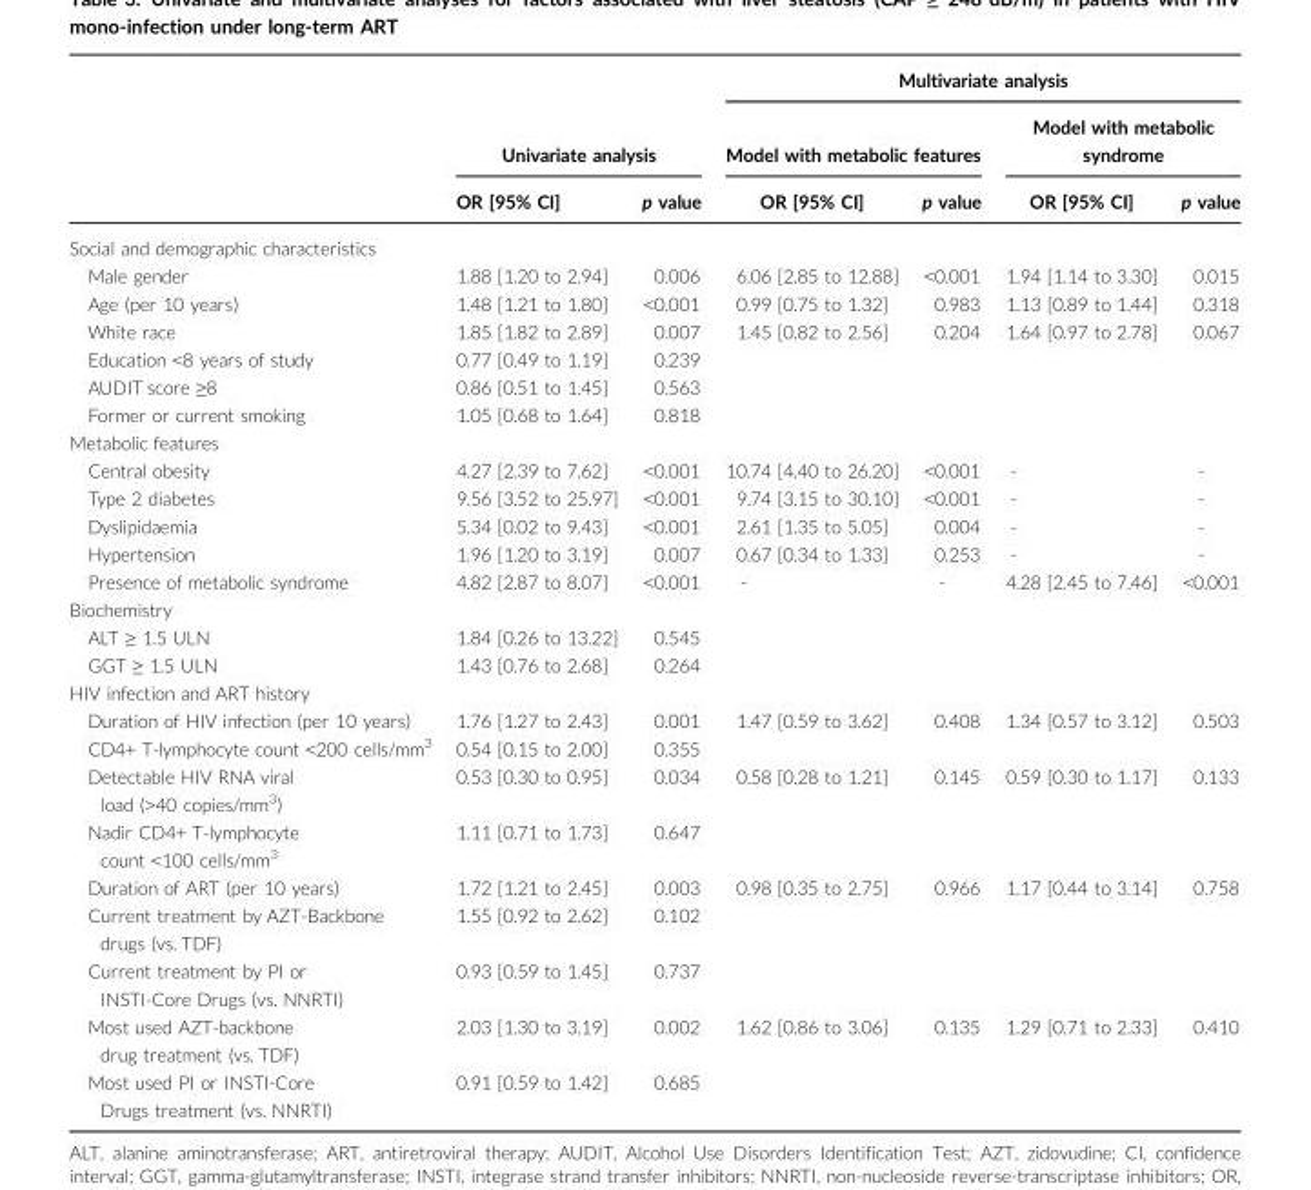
<table><thead><tr><td rowspan="3"></td><td rowspan="2" colspan="2">Univariate analysis</td><td colspan="4">Multivariate analysis</td></tr><tr><td colspan="2">Model with metabolic features</td><td colspan="2">Model with metabolic syndrome</td></tr><tr><td>OR [95% CI]</td><td>p value</td><td>OR [95% CI]</td><td>p value</td><td>OR [95% CI]</td><td>p value</td></tr></thead><tbody><tr><td colspan="7">Social and demographic characteristics</td></tr><tr><td>Male gender</td><td>1.88 [1.20 to 2.94]</td><td>0.006</td><td>6.06 [2.85 to 12.88]</td><td>&lt;0.001</td><td>1.94 [1.14 to 3.30]</td><td>0.015</td></tr><tr><td>Age (per 10 years)</td><td>1.48 [1.21 to 1.80]</td><td>&lt;0.001</td><td>0.99 [0.75 to 1.32]</td><td>0.983</td><td>1.13 [0.89 to 1.44]</td><td>0.318</td></tr><tr><td>White race</td><td>1.85 [1.82 to 2.89]</td><td>0.007</td><td>1.45 [0.82 to 2.56]</td><td>0.204</td><td>1.64 [0.97 to 2.78]</td><td>0.067</td></tr><tr><td>Education &lt;8 years of study</td><td>0.77 [0.49 to 1.19]</td><td>0.239</td><td></td><td></td><td></td><td></td></tr><tr><td>AUDIT score ≥8</td><td>0.86 [0.51 to 1.45]</td><td>0.563</td><td></td><td></td><td></td><td></td></tr><tr><td>Former or current smoking</td><td>1.05 [0.68 to 1.64]</td><td>0.818</td><td></td><td></td><td></td><td></td></tr><tr><td colspan="7">Metabolic features</td></tr><tr><td>Central obesity</td><td>4.27 [2.39 to 7.62]</td><td>&lt;0.001</td><td>10.74 [4.40 to 26.20]</td><td>&lt;0.001</td><td>-</td><td>-</td></tr><tr><td>Type 2 diabetes</td><td>9.56 [3.52 to 25.97]</td><td>&lt;0.001</td><td>9.74 [3.15 to 30.10]</td><td>&lt;0.001</td><td>-</td><td>-</td></tr><tr><td>Dyslipidaemia</td><td>5.34 [0.02 to 9.43]</td><td>&lt;0.001</td><td>2.61 [1.35 to 5.05]</td><td>0.004</td><td>-</td><td>-</td></tr><tr><td>Hypertension</td><td>1.96 [1.20 to 3.19]</td><td>0.007</td><td>0.67 [0.34 to 1.33]</td><td>0.253</td><td>-</td><td>-</td></tr><tr><td>Presence of metabolic syndrome</td><td>4.82 [2.87 to 8.07]</td><td>&lt;0.001</td><td>-</td><td>-</td><td>4.28 [2.45 to 7.46]</td><td>&lt;0.001</td></tr><tr><td colspan="7">Biochemistry</td></tr><tr><td>ALT ≥ 1.5 ULN</td><td>1.84 [0.26 to 13.22]</td><td>0.545</td><td></td><td></td><td></td><td></td></tr><tr><td>GGT ≥ 1.5 ULN</td><td>1.43 [0.76 to 2.68]</td><td>0.264</td><td></td><td></td><td></td><td></td></tr><tr><td colspan="7">HIV infection and ART history</td></tr><tr><td>Duration of HIV infection (per 10 years)</td><td>1.76 [1.27 to 2.43]</td><td>0.001</td><td>1.47 [0.59 to 3.62]</td><td>0.408</td><td>1.34 [0.57 to 3.12]</td><td>0.503</td></tr><tr><td>CD4+ T-lymphocyte count &lt;200 cells/mm<sup>3</sup></td><td>0.54 [0.15 to 2.00]</td><td>0.355</td><td></td><td></td><td></td><td></td></tr><tr><td>Detectable HIV RNA viral load (&gt;40 copies/mm<sup>3</sup>)</td><td>0.53 [0.30 to 0.95]</td><td>0.034</td><td>0.58 [0.28 to 1.21]</td><td>0.145</td><td>0.59 [0.30 to 1.17]</td><td>0.133</td></tr><tr><td>Nadir CD4+ T-lymphocyte count &lt;100 cells/mm<sup>3</sup></td><td>1.11 [0.71 to 1.73]</td><td>0.647</td><td></td><td></td><td></td><td></td></tr><tr><td>Duration of ART (per 10 years)</td><td>1.72 [1.21 to 2.45]</td><td>0.003</td><td>0.98 [0.35 to 2.75]</td><td>0.966</td><td>1.17 [0.44 to 3.14]</td><td>0.758</td></tr><tr><td>Current treatment by AZT-Backbone drugs (vs. TDF)</td><td>1.55 [0.92 to 2.62]</td><td>0.102</td><td></td><td></td><td></td><td></td></tr><tr><td>Current treatment by PI or INSTI-Core Drugs (vs. NNRTI)</td><td>0.93 [0.59 to 1.45]</td><td>0.737</td><td></td><td></td><td></td><td></td></tr><tr><td>Most used AZT-backbone drug treatment (vs. TDF)</td><td>2.03 [1.30 to 3.19]</td><td>0.002</td><td>1.62 [0.86 to 3.06]</td><td>0.135</td><td>1.29 [0.71 to 2.33]</td><td>0.410</td></tr><tr><td>Most used PI or INSTI-Core Drugs treatment (vs. NNRTI)</td><td>0.91 [0.59 to 1.42]</td><td>0.685</td><td></td><td></td><td></td><td></td></tr></tbody></table>